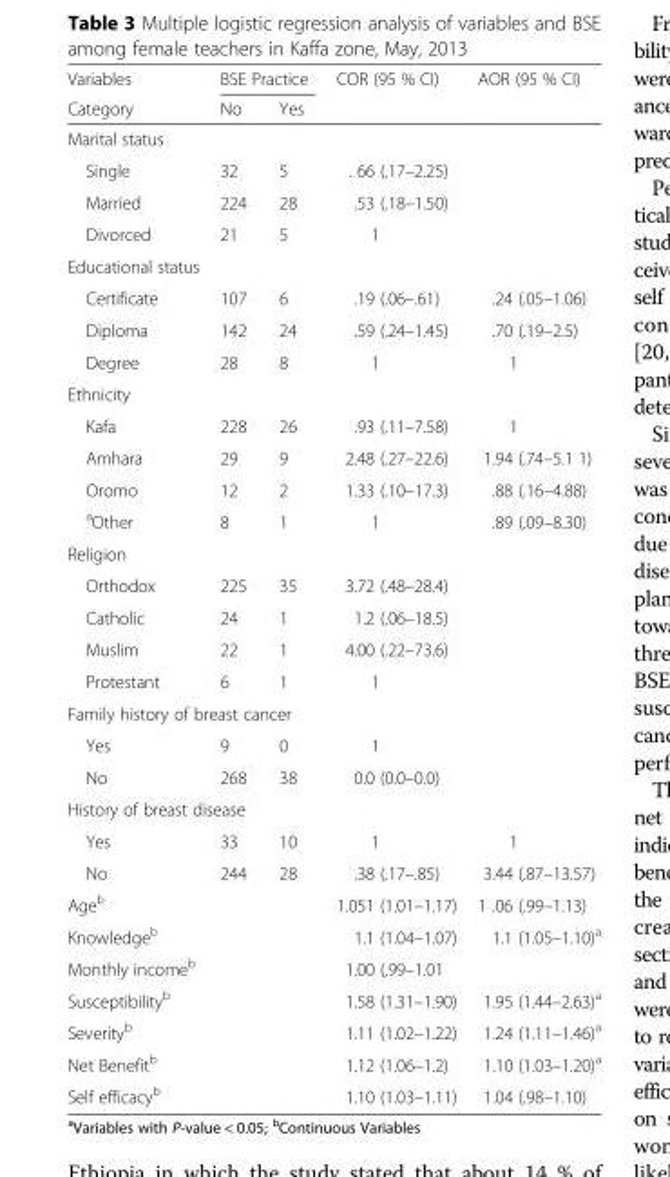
<table><thead><tr><td rowspan="2">Variables Category</td><td colspan="2">BSE Practice</td><td rowspan="2">COR (95 % CI)</td><td rowspan="2">AOR (95 % CI)</td></tr><tr><td>No</td><td>Yes</td></tr></thead><tbody><tr><td colspan="5">Marital status</td></tr><tr><td>Single</td><td>32</td><td>5</td><td>. 66 (.17–2.25)</td><td></td></tr><tr><td>Married</td><td>224</td><td>28</td><td>.53 (.18–1.50)</td><td></td></tr><tr><td>Divorced</td><td>21</td><td>5</td><td>1</td><td></td></tr><tr><td colspan="5">Educational status</td></tr><tr><td>Certificate</td><td>107</td><td>6</td><td>.19 (.06–.61)</td><td>.24 (.05–1.06)</td></tr><tr><td>Diploma</td><td>142</td><td>24</td><td>.59 (.24–1.45)</td><td>.70 (.19–2.5)</td></tr><tr><td>Degree</td><td>28</td><td>8</td><td>1</td><td>1</td></tr><tr><td colspan="5">Ethnicity</td></tr><tr><td>Kafa</td><td>228</td><td>26</td><td>.93 (.11–7.58)</td><td>1</td></tr><tr><td>Amhara</td><td>29</td><td>9</td><td>2.48 (.27–22.6)</td><td>1.94 (.74–5.1 1)</td></tr><tr><td>Oromo</td><td>12</td><td>2</td><td>1.33 (.10–17.3)</td><td>.88 (.16–4.88)</td></tr><tr><td><sup>a</sup>Other</td><td>8</td><td>1</td><td>1</td><td>.89 (.09–8.30)</td></tr><tr><td colspan="5">Religion</td></tr><tr><td>Orthodox</td><td>225</td><td>35</td><td>3.72 (.48–28.4)</td><td></td></tr><tr><td>Catholic</td><td>24</td><td>1</td><td>1.2 (.06–18.5)</td><td></td></tr><tr><td>Muslim</td><td>22</td><td>1</td><td>4.00 (.22–73.6)</td><td></td></tr><tr><td>Protestant</td><td>6</td><td>1</td><td>1</td><td></td></tr><tr><td colspan="5">Family history of breast cancer</td></tr><tr><td>Yes</td><td>9</td><td>0</td><td>1</td><td></td></tr><tr><td>No</td><td>268</td><td>38</td><td>0.0 (0.0–0.0)</td><td></td></tr><tr><td colspan="5">History of breast disease</td></tr><tr><td>Yes</td><td>33</td><td>10</td><td>1</td><td>1</td></tr><tr><td>No</td><td>244</td><td>28</td><td>.38 (.17–.85)</td><td>3.44 (.87–13.57)</td></tr><tr><td>Age<sup>b</sup></td><td></td><td></td><td>1.051 (1.01–1.17)</td><td>1 .06 (.99–1.13)</td></tr><tr><td>Knowledge<sup>b</sup></td><td></td><td></td><td>1.1 (1.04–1.07)</td><td>1.1 (1.05–1.10)<sup>a</sup></td></tr><tr><td>Monthly income<sup>b</sup></td><td></td><td></td><td>1.00 (.99–1.01</td><td></td></tr><tr><td>Susceptibility<sup>b</sup></td><td></td><td></td><td>1.58 (1.31–1.90)</td><td>1.95 (1.44–2.63)<sup>a</sup></td></tr><tr><td>Severity<sup>b</sup></td><td></td><td></td><td>1.11 (1.02–1.22)</td><td>1.24 (1.11–1.46)<sup>a</sup></td></tr><tr><td>Net Benefit<sup>b</sup></td><td></td><td></td><td>1.12 (1.06–1.2)</td><td>1.10 (1.03–1.20)<sup>a</sup></td></tr><tr><td>Self efficacy<sup>b</sup></td><td></td><td></td><td>1.10 (1.03–1.11)</td><td>1.04 (.98–1.10)</td></tr></tbody></table>